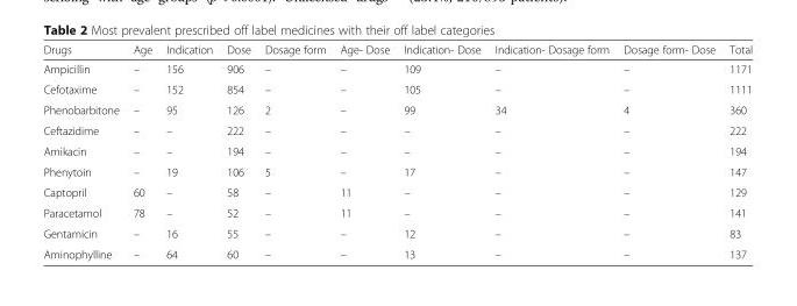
<table><thead><tr><td>Drugs</td><td>Age</td><td>Indication</td><td>Dose</td><td>Dosage form</td><td>Age- Dose</td><td>Indication- Dose</td><td>Indication- Dosage form</td><td>Dosage form- Dose</td><td>Total</td></tr></thead><tbody><tr><td>Ampicillin</td><td>–</td><td>156</td><td>906</td><td>–</td><td>–</td><td>109</td><td>–</td><td>–</td><td>1171</td></tr><tr><td>Cefotaxime</td><td>–</td><td>152</td><td>854</td><td>–</td><td>–</td><td>105</td><td>–</td><td>–</td><td>1111</td></tr><tr><td>Phenobarbitone</td><td>–</td><td>95</td><td>126</td><td>2</td><td>–</td><td>99</td><td>34</td><td>4</td><td>360</td></tr><tr><td>Ceftazidime</td><td>–</td><td>–</td><td>222</td><td>–</td><td>–</td><td>–</td><td>–</td><td>–</td><td>222</td></tr><tr><td>Amikacin</td><td>–</td><td>–</td><td>194</td><td>–</td><td>–</td><td>–</td><td>–</td><td>–</td><td>194</td></tr><tr><td>Phenytoin</td><td>–</td><td>19</td><td>106</td><td>5</td><td>–</td><td>17</td><td>–</td><td>–</td><td>147</td></tr><tr><td>Captopril</td><td>60</td><td>–</td><td>58</td><td>–</td><td>11</td><td>–</td><td>–</td><td>–</td><td>129</td></tr><tr><td>Paracetamol</td><td>78</td><td>–</td><td>52</td><td>–</td><td>11</td><td>–</td><td>–</td><td>–</td><td>141</td></tr><tr><td>Gentamicin</td><td>–</td><td>16</td><td>55</td><td>–</td><td>–</td><td>12</td><td>–</td><td>–</td><td>83</td></tr><tr><td>Aminophylline</td><td>–</td><td>64</td><td>60</td><td>–</td><td>–</td><td>13</td><td>–</td><td>–</td><td>137</td></tr></tbody></table>